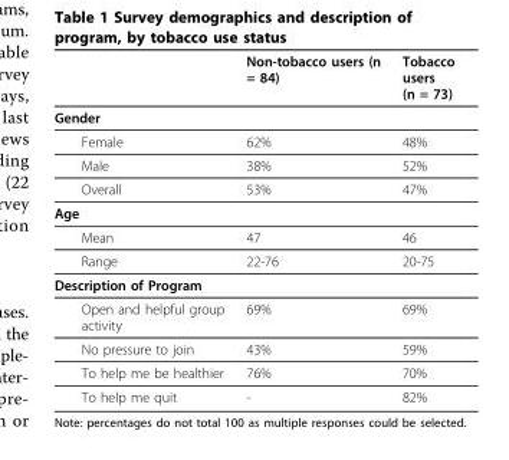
<table><thead><tr><td></td><td>Non-tobacco users (n = 84)</td><td>Tobacco users (n = 73)</td></tr></thead><tbody><tr><td colspan="3">Gender</td></tr><tr><td>Female</td><td>62%</td><td>48%</td></tr><tr><td>Male</td><td>38%</td><td>52%</td></tr><tr><td>Overall</td><td>53%</td><td>47%</td></tr><tr><td colspan="3">Age</td></tr><tr><td>Mean</td><td>47</td><td>46</td></tr><tr><td>Range</td><td>22-76</td><td>20-75</td></tr><tr><td colspan="3">Description of Program</td></tr><tr><td>Open and helpful group activity</td><td>69%</td><td>69%</td></tr><tr><td>No pressure to join</td><td>43%</td><td>59%</td></tr><tr><td>To help me be healthier</td><td>76%</td><td>70%</td></tr><tr><td>To help me quit</td><td>-</td><td>82%</td></tr></tbody></table>